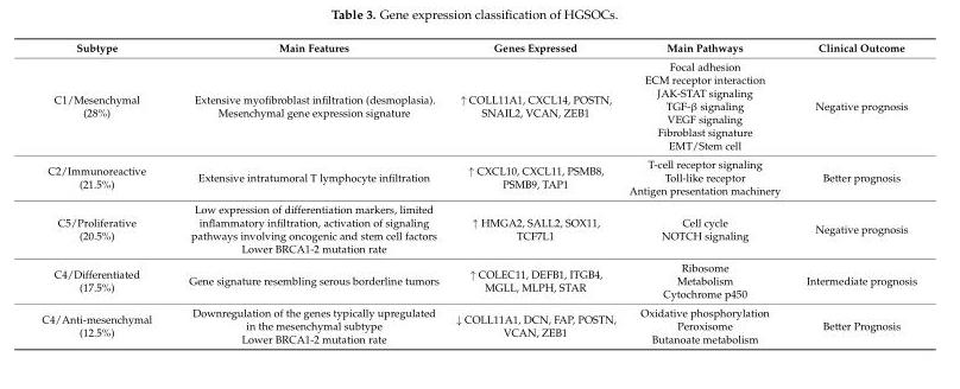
<table><thead><tr><td>Subtype</td><td>Main Features</td><td>Genes Expressed</td><td>Main Pathways</td><td>Clinical Outcome</td></tr></thead><tbody><tr><td>C1/Mesenchymal (28%)</td><td>Extensive myofibroblast infiltration (desmoplasia). Mesenchymal gene expression signature</td><td>↑ COLL11A1, CXCL14, POSTN, SNAIL2, VCAN, ZEB1</td><td>Focal adhesion ECM receptor interaction JAK-STAT signaling TGF-β signaling VEGF signaling Fibroblast signature EMT/Stem cell</td><td>Negative prognosis</td></tr><tr><td>C2/Immunoreactive (21.5%)</td><td>Extensive intratumoral T lymphocyte infiltration</td><td>↑ CXCL10, CXCL11, PSMB8, PSMB9, TAP1</td><td>T-cell receptor signaling Toll-like receptor Antigen presentation machinery</td><td>Better prognosis</td></tr><tr><td>C5/Proliferative (20.5%)</td><td>Low expression of differentiation markers, limited inflammatory infiltration, activation of signaling pathways involving oncogenic and stem cell factors Lower BRCA1-2 mutation rate</td><td>↑ HMGA2, SALL2, SOX11, TCF7L1</td><td>Cell cycle NOTCH signaling</td><td>Negative prognosis</td></tr><tr><td>C4/Differentiated (17.5%)</td><td>Gene signature resembling serous borderline tumors</td><td>↑ COLEC11, DEFB1, ITGB4, MGLL, MLPH, STAR</td><td>Ribosome Metabolism Cytochrome p450</td><td>Intermediate prognosis</td></tr><tr><td>C4/Anti-mesenchymal (12.5%)</td><td>Downregulation of the genes typically upregulated in the mesenchymal subtype Lower BRCA1-2 mutation rate</td><td>↓ COLL11A1, DCN, FAP, POSTN, VCAN, ZEB1</td><td>Oxidative phosphorylation Peroxisome Butanoate metabolism</td><td>Better Prognosis</td></tr></tbody></table>